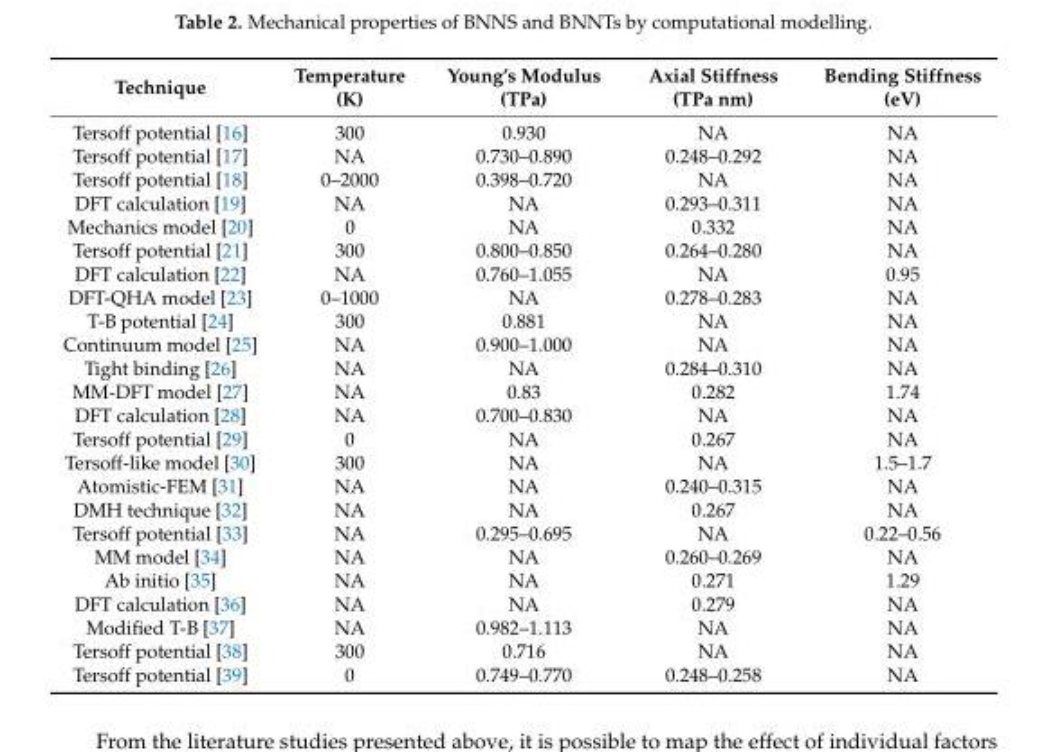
<table><thead><tr><td>Technique</td><td>Temperature (K)</td><td>Young’s Modulus (TPa)</td><td>Axial Stiffness (TPa nm)</td><td>Bending Stiffness (eV)</td></tr></thead><tbody><tr><td>Tersoff potential [16]</td><td>300</td><td>0.930</td><td>NA</td><td>NA</td></tr><tr><td>Tersoff potential [17]</td><td>NA</td><td>0.730–0.890</td><td>0.248–0.292</td><td>NA</td></tr><tr><td>Tersoff potential [18]</td><td>0–2000</td><td>0.398–0.720</td><td>NA</td><td>NA</td></tr><tr><td>DFT calculation [19]</td><td>NA</td><td>NA</td><td>0.293–0.311</td><td>NA</td></tr><tr><td>Mechanics model [20]</td><td>0</td><td>NA</td><td>0.332</td><td>NA</td></tr><tr><td>Tersoff potential [21]</td><td>300</td><td>0.800–0.850</td><td>0.264–0.280</td><td>NA</td></tr><tr><td>DFT calculation [22]</td><td>NA</td><td>0.760–1.055</td><td>NA</td><td>0.95</td></tr><tr><td>DFT-QHA model [23]</td><td>0–1000</td><td>NA</td><td>0.278–0.283</td><td>NA</td></tr><tr><td>T-B potential [24]</td><td>300</td><td>0.881</td><td>NA</td><td>NA</td></tr><tr><td>Continuum model [25]</td><td>NA</td><td>0.900–1.000</td><td>NA</td><td>NA</td></tr><tr><td>Tight binding [26]</td><td>NA</td><td>NA</td><td>0.284–0.310</td><td>NA</td></tr><tr><td>MM-DFT model [27]</td><td>NA</td><td>0.83</td><td>0.282</td><td>1.74</td></tr><tr><td>DFT calculation [28]</td><td>NA</td><td>0.700–0.830</td><td>NA</td><td>NA</td></tr><tr><td>Tersoff potential [29]</td><td>0</td><td>NA</td><td>0.267</td><td>NA</td></tr><tr><td>Tersoff-like model [30]</td><td>300</td><td>NA</td><td>NA</td><td>1.5–1.7</td></tr><tr><td>Atomistic-FEM [31]</td><td>NA</td><td>NA</td><td>0.240–0.315</td><td>NA</td></tr><tr><td>DMH technique [32]</td><td>NA</td><td>NA</td><td>0.267</td><td>NA</td></tr><tr><td>Tersoff potential [33]</td><td>NA</td><td>0.295–0.695</td><td>NA</td><td>0.22–0.56</td></tr><tr><td>MM model [34]</td><td>NA</td><td>NA</td><td>0.260–0.269</td><td>NA</td></tr><tr><td>Ab initio [35]</td><td>NA</td><td>NA</td><td>0.271</td><td>1.29</td></tr><tr><td>DFT calculation [36]</td><td>NA</td><td>NA</td><td>0.279</td><td>NA</td></tr><tr><td>Modified T-B [37]</td><td>NA</td><td>0.982–1.113</td><td>NA</td><td>NA</td></tr><tr><td>Tersoff potential [38]</td><td>300</td><td>0.716</td><td>NA</td><td>NA</td></tr><tr><td>Tersoff potential [39]</td><td>0</td><td>0.749–0.770</td><td>0.248–0.258</td><td>NA</td></tr></tbody></table>